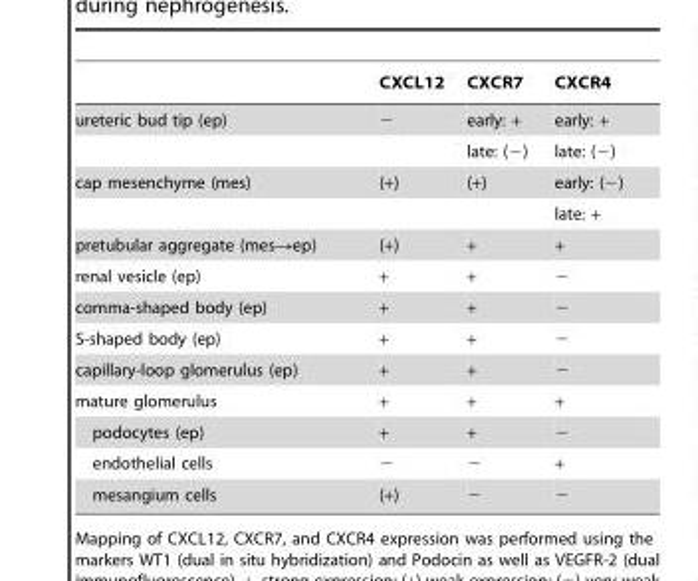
<table><thead><tr><td></td><td>CXCL12</td><td>CXCR7</td><td>CXCR4</td></tr></thead><tbody><tr><td rowspan="2">ureteric bud tip (ep)</td><td>−</td><td>early: +</td><td>early: +</td></tr><tr><td></td><td>late: (−)</td><td>late: (−)</td></tr><tr><td rowspan="2">cap mesenchyme (mes)</td><td>(+)</td><td>(+)</td><td>early: (−)</td></tr><tr><td></td><td></td><td>late: +</td></tr><tr><td>pretubular aggregate (mes→ep)</td><td>(+)</td><td>+</td><td>+</td></tr><tr><td>renal vesicle (ep)</td><td>+</td><td>+</td><td>−</td></tr><tr><td>comma-shaped body (ep)</td><td>+</td><td>+</td><td>−</td></tr><tr><td>S-shaped body (ep)</td><td>+</td><td>+</td><td>−</td></tr><tr><td>capillary-loop glomerulus (ep)</td><td>+</td><td>+</td><td>−</td></tr><tr><td>mature glomerulus</td><td>+</td><td>+</td><td>+</td></tr><tr><td>podocytes (ep)</td><td>+</td><td>+</td><td>−</td></tr><tr><td>endothelial cells</td><td>−</td><td>−</td><td>+</td></tr><tr><td>mesangium cells</td><td>(+)</td><td>−</td><td>−</td></tr></tbody></table>